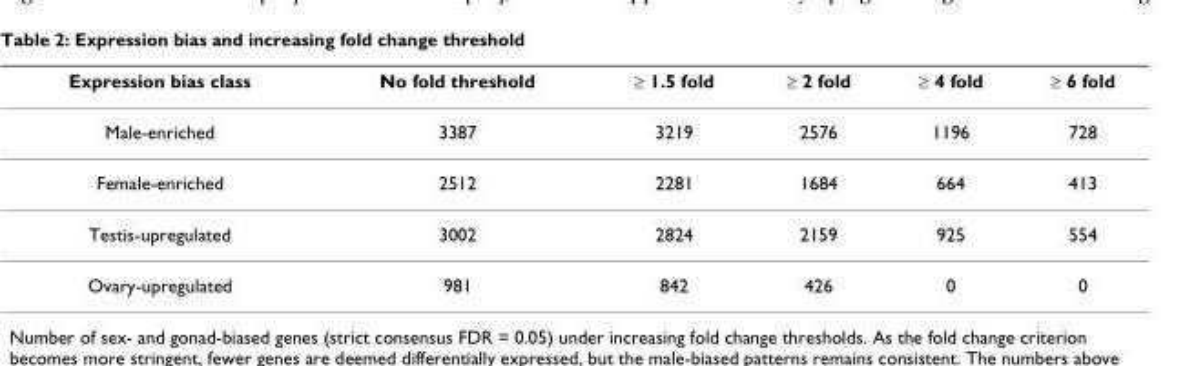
<table><thead><tr><td>Expression bias class</td><td>No fold threshold</td><td>≥ 1.5 fold</td><td>≥ 2 fold</td><td>≥ 4 fold</td><td>≥ 6 fold</td></tr></thead><tbody><tr><td>Male-enriched</td><td>3387</td><td>3219</td><td>2576</td><td>1196</td><td>728</td></tr><tr><td>Female-enriched</td><td>2512</td><td>2281</td><td>1684</td><td>664</td><td>413</td></tr><tr><td>Testis-upregulated</td><td>3002</td><td>2824</td><td>2159</td><td>925</td><td>554</td></tr><tr><td>Ovary-upregulated</td><td>981</td><td>842</td><td>426</td><td>0</td><td>0</td></tr></tbody></table>